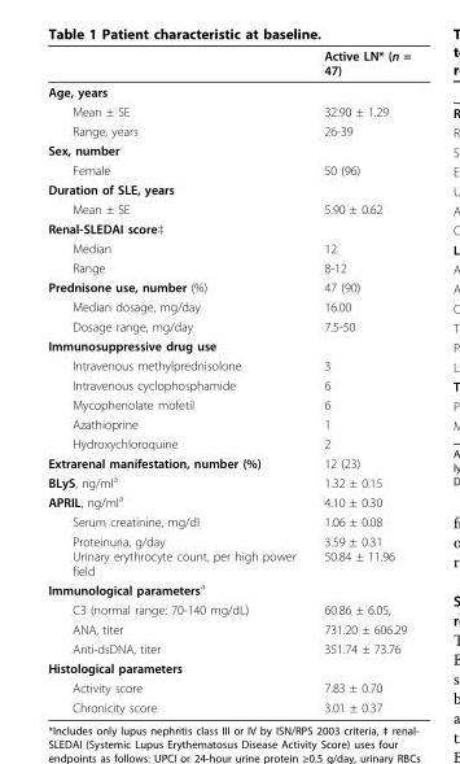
<table><thead><tr><td></td><td>Active LN* (n = 47)</td></tr></thead><tbody><tr><td colspan="2">Age, years</td></tr><tr><td>Mean ± SE</td><td>32.90 ± 1.29</td></tr><tr><td>Range, years</td><td>26-39</td></tr><tr><td colspan="2">Sex, number</td></tr><tr><td>Female</td><td>50 (96)</td></tr><tr><td colspan="2">Duration of SLE, years</td></tr><tr><td>Mean ± SE</td><td>5.90 ± 0.62</td></tr><tr><td colspan="2">Renal-SLEDAI score‡</td></tr><tr><td>Median</td><td>12</td></tr><tr><td>Range</td><td>8-12</td></tr><tr><td>Prednisone use, number (%)</td><td>47 (90)</td></tr><tr><td>Median dosage, mg/day</td><td>16.00</td></tr><tr><td>Dosage range, mg/day</td><td>7.5-50</td></tr><tr><td colspan="2">Immunosuppressive drug use</td></tr><tr><td>Intravenous methylprednisolone</td><td>3</td></tr><tr><td>Intravenous cyclophosphamide</td><td>6</td></tr><tr><td>Mycophenolate mofetil</td><td>6</td></tr><tr><td>Azathioprine</td><td>1</td></tr><tr><td>Hydroxychloroquine</td><td>2</td></tr><tr><td>Extrarenal manifestation, number (%)</td><td>12 (23)</td></tr><tr><td>BLyS, ng/ml<sup>a</sup></td><td>1.32 ± 0.15</td></tr><tr><td>APRIL, ng/ml<sup>a</sup></td><td>4.10 ± 0.30</td></tr><tr><td>Serum creatinine, mg/dl</td><td>1.06 ± 0.08</td></tr><tr><td>Proteinuria, g/day Urinary erythrocyte count, per high power field</td><td>3.59 ± 0.31 50.84 ± 11.96</td></tr><tr><td colspan="2">Immunological parameters<sup>a</sup></td></tr><tr><td>C3 (normal range: 70-140 mg/dL)</td><td>60.86 ± 6.05,</td></tr><tr><td>ANA, titer</td><td>731.20 ± 606.29</td></tr><tr><td>Anti-dsDNA, titer</td><td>351.74 ± 73.76</td></tr><tr><td colspan="2">Histological parameters</td></tr><tr><td>Activity score</td><td>7.83 ± 0.70</td></tr><tr><td>Chronicity score</td><td>3.01 ± 0.37</td></tr></tbody></table>